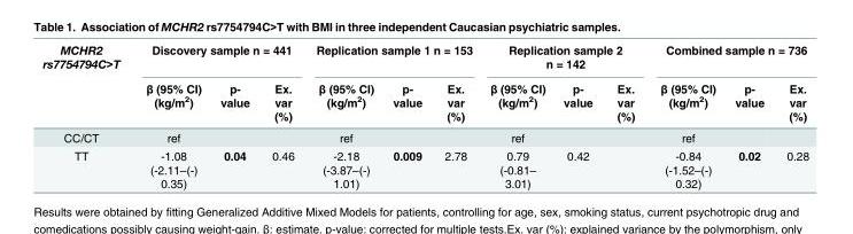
<table><thead><tr><td rowspan="2">MCHR2 rs7754794C&gt;T</td><td colspan="3">Discovery sample n = 441</td><td colspan="3">Replication sample 1 n = 153</td><td colspan="3">Replication sample 2 n = 142</td><td colspan="3">Combined sample n = 736</td></tr><tr><td>β (95% CI) (kg/m<sup>2</sup>)</td><td>p- value</td><td>Ex. var (%)</td><td>β (95% CI) (kg/m<sup>2</sup>)</td><td>p- value</td><td>Ex. var (%)</td><td>β (95% CI) (kg/m<sup>2</sup>)</td><td>p- value</td><td>Ex. var (%)</td><td>β (95% CI) (kg/m<sup>2</sup>)</td><td>p- value</td><td>Ex. var (%)</td></tr></thead><tbody><tr><td>CC/CT</td><td>ref</td><td></td><td></td><td>ref</td><td></td><td></td><td>ref</td><td></td><td></td><td>ref</td><td></td><td></td></tr><tr><td>TT</td><td>-1.08 (-2.11–(-) 0.35)</td><td>0.04</td><td>0.46</td><td>-2.18 (-3.87–(-) 1.01)</td><td>0.009</td><td>2.78</td><td>0.79 (-0.81– 3.01)</td><td>0.42</td><td></td><td>-0.84 (-1.52–(-) 0.32)</td><td>0.02</td><td>0.28</td></tr></tbody></table>